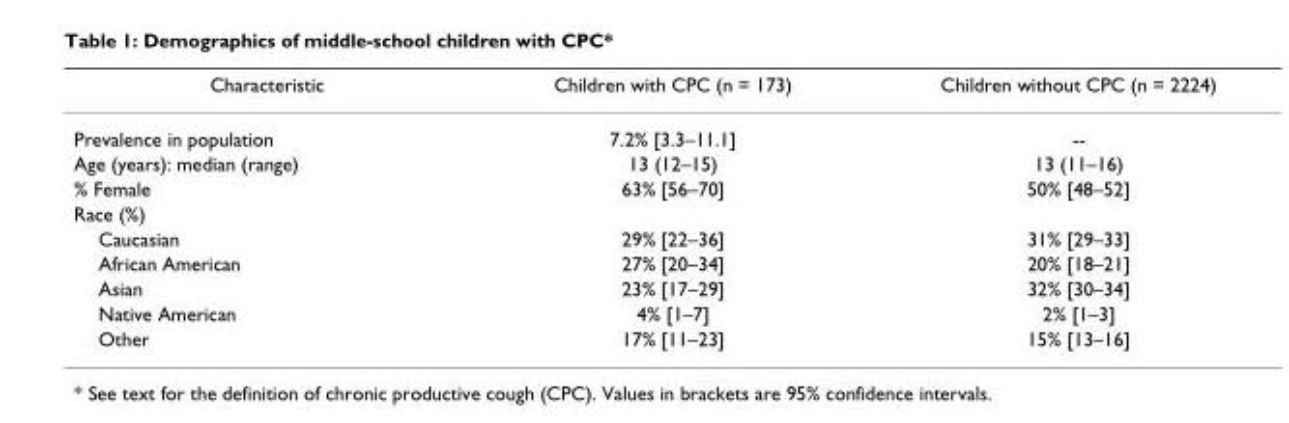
<table><thead><tr><td>Characteristic</td><td>Children with CPC (n = 173)</td><td>Children without CPC (n = 2224)</td></tr></thead><tbody><tr><td>Prevalence in population</td><td>7.2% [3.3–11.1]</td><td>--</td></tr><tr><td>Age (years): median (range)</td><td>13 (12–15)</td><td>13 (11–16)</td></tr><tr><td>% Female</td><td>63% [56–70]</td><td>50% [48–52]</td></tr><tr><td colspan="3">Race (%)</td></tr><tr><td>Caucasian</td><td>29% [22–36]</td><td>31% [29–33]</td></tr><tr><td>African American</td><td>27% [20–34]</td><td>20% [18–21]</td></tr><tr><td>Asian</td><td>23% [17–29]</td><td>32% [30–34]</td></tr><tr><td>Native American</td><td>4% [1–7]</td><td>2% [1–3]</td></tr><tr><td>Other</td><td>17% [11–23]</td><td>15% [13–16]</td></tr></tbody></table>